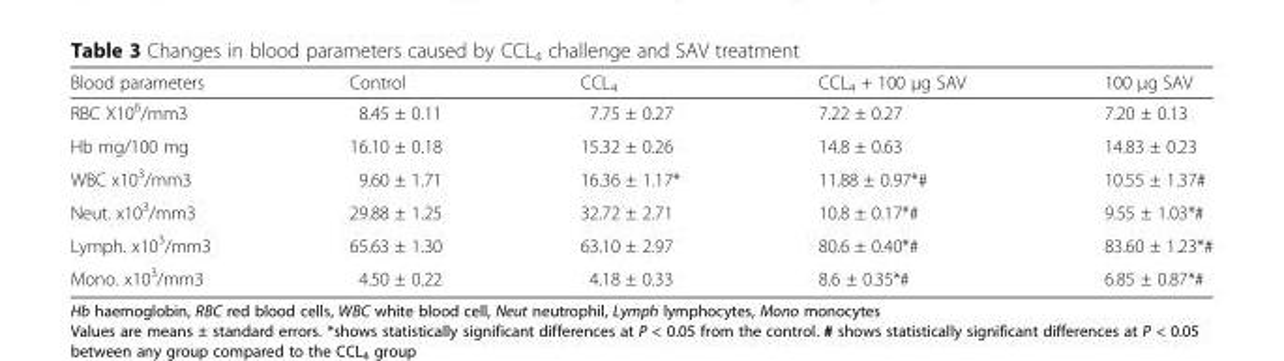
<table><thead><tr><td>Blood parameters</td><td>Control</td><td>CCL<sub>4</sub></td><td>CCL<sub>4</sub> + 100 μg SAV</td><td>100 μg SAV</td></tr></thead><tbody><tr><td>RBC X10<sup>6</sup>/mm3</td><td>8.45 ± 0.11</td><td>7.75 ± 0.27</td><td>7.22 ± 0.27</td><td>7.20 ± 0.13</td></tr><tr><td>Hb mg/100 mg</td><td>16.10 ± 0.18</td><td>15.32 ± 0.26</td><td>14.8 ± 0.63</td><td>14.83 ± 0.23</td></tr><tr><td>WBC x10<sup>3</sup>/mm3</td><td>9.60 ± 1.71</td><td>16.36 ± 1.17*</td><td>11.88 ± 0.97*#</td><td>10.55 ± 1.37#</td></tr><tr><td>Neut. x10<sup>3</sup>/mm3</td><td>29.88 ± 1.25</td><td>32.72 ± 2.71</td><td>10.8 ± 0.17*#</td><td>9.55 ± 1.03*#</td></tr><tr><td>Lymph. x10<sup>3</sup>/mm3</td><td>65.63 ± 1.30</td><td>63.10 ± 2.97</td><td>80.6 ± 0.40*#</td><td>83.60 ± 1.23*#</td></tr><tr><td>Mono. x10<sup>3</sup>/mm3</td><td>4.50 ± 0.22</td><td>4.18 ± 0.33</td><td>8.6 ± 0.35*#</td><td>6.85 ± 0.87*#</td></tr></tbody></table>